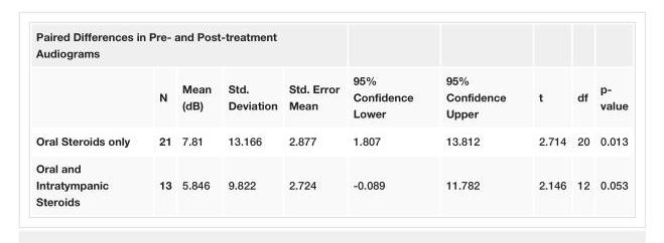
<table><tbody><tr><td colspan="10">Paired Differences in Pre- and Post-treatment Audiograms</td></tr><tr><td></td><td>N</td><td>Mean (dB)</td><td>Std. Deviation</td><td>Std. Error Mean</td><td>95% Confidence Lower</td><td>95% Confidence Upper</td><td>t</td><td>df</td><td>p- value</td></tr><tr><td>Oral Steroids only</td><td>21</td><td>7.81</td><td>13.166</td><td>2.877</td><td>1.807</td><td>13.812</td><td>2.714</td><td>20</td><td>0.013</td></tr><tr><td>Oral and Intratympanic Steroids</td><td>13</td><td>5.846</td><td>9.822</td><td>2.724</td><td>-0.089</td><td>11.782</td><td>2.146</td><td>12</td><td>0.053</td></tr></tbody></table>